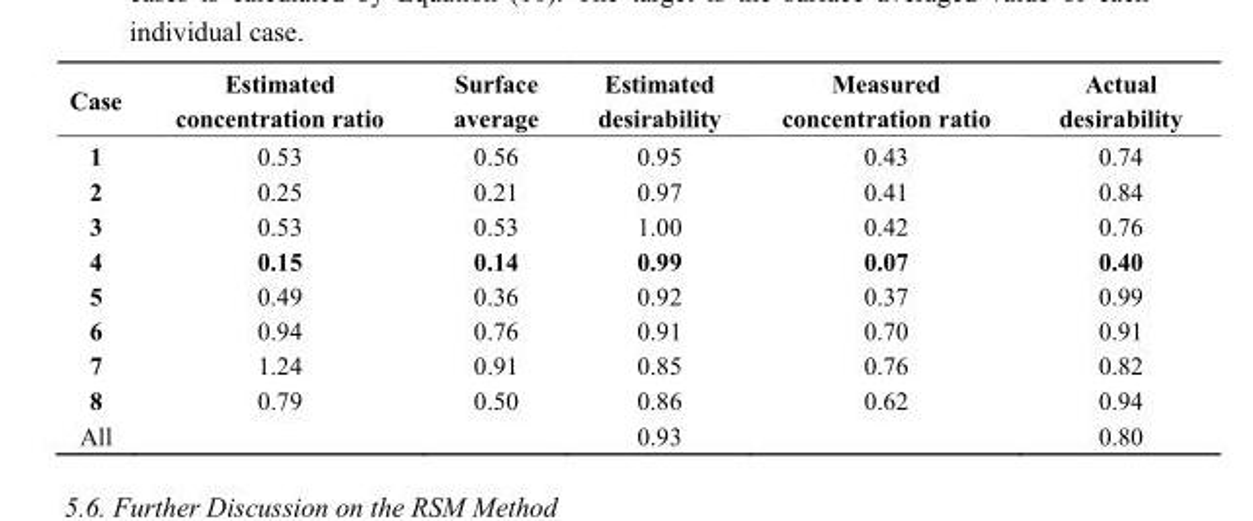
<table><thead><tr><td>Case</td><td>Estimated concentration ratio</td><td>Surface average</td><td>Estimated desirability</td><td>Measured concentration ratio</td><td>Actual desirability</td></tr></thead><tbody><tr><td>1</td><td>0.53</td><td>0.56</td><td>0.95</td><td>0.43</td><td>0.74</td></tr><tr><td>2</td><td>0.25</td><td>0.21</td><td>0.97</td><td>0.41</td><td>0.84</td></tr><tr><td>3</td><td>0.53</td><td>0.53</td><td>1.00</td><td>0.42</td><td>0.76</td></tr><tr><td>4</td><td>0.15</td><td>0.14</td><td>0.99</td><td>0.07</td><td>0.40</td></tr><tr><td>5</td><td>0.49</td><td>0.36</td><td>0.92</td><td>0.37</td><td>0.99</td></tr><tr><td>6</td><td>0.94</td><td>0.76</td><td>0.91</td><td>0.70</td><td>0.91</td></tr><tr><td>7</td><td>1.24</td><td>0.91</td><td>0.85</td><td>0.76</td><td>0.82</td></tr><tr><td>8</td><td>0.79</td><td>0.50</td><td>0.86</td><td>0.62</td><td>0.94</td></tr><tr><td>All</td><td></td><td></td><td>0.93</td><td></td><td>0.80</td></tr></tbody></table>